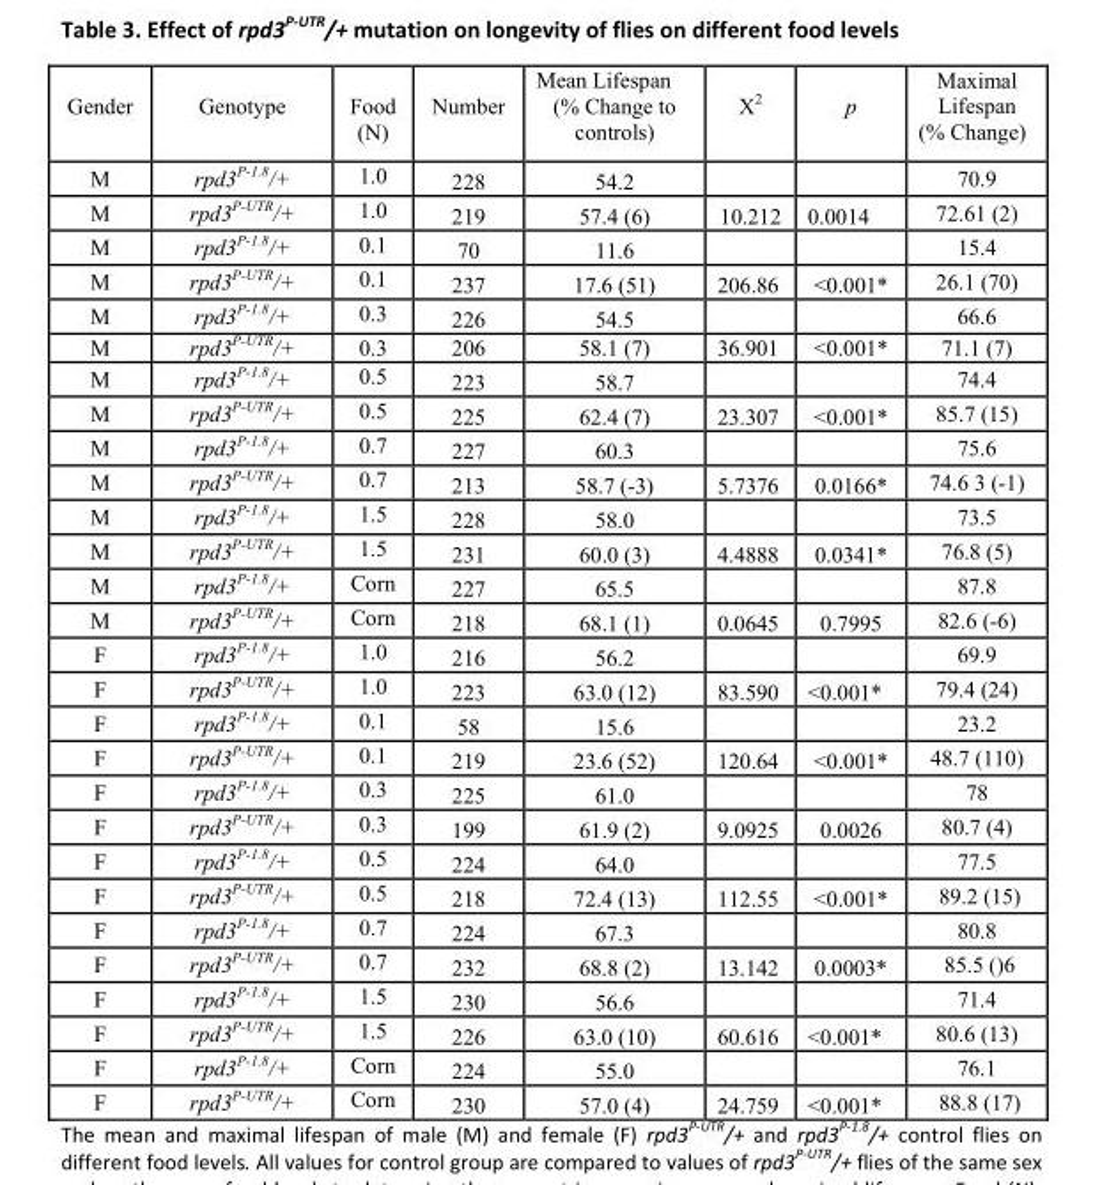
<table><thead><tr><td>Gender</td><td>Genotype</td><td>Food (N)</td><td>Number</td><td>Mean Lifespan (% Change to controls)</td><td>X<sup>2</sup></td><td>p</td><td>Maximal Lifespan (% Change)</td></tr></thead><tbody><tr><td>M</td><td>rpd3<sup>P-1.8</sup>/+</td><td>1.0</td><td>228</td><td>54.2</td><td></td><td></td><td>70.9</td></tr><tr><td>M</td><td>rpd3<sup>P-UTR</sup>/+</td><td>1.0</td><td>219</td><td>57.4 (6)</td><td>10.212</td><td>0.0014</td><td>72.61 (2)</td></tr><tr><td>M</td><td>rpd3<sup>P-1.8</sup>/+</td><td>0.1</td><td>70</td><td>11.6</td><td></td><td></td><td>15.4</td></tr><tr><td>M</td><td>rpd3<sup>P-UTR</sup>/+</td><td>0.1</td><td>237</td><td>17.6 (51)</td><td>206.86</td><td>&lt;0.001*</td><td>26.1 (70)</td></tr><tr><td>M</td><td>rpd3<sup>P-1.8</sup>/+</td><td>0.3</td><td>226</td><td>54.5</td><td></td><td></td><td>66.6</td></tr><tr><td>M</td><td>rpd3<sup>P-UTR</sup>/+</td><td>0.3</td><td>206</td><td>58.1 (7)</td><td>36.901</td><td>&lt;0.001*</td><td>71.1 (7)</td></tr><tr><td>M</td><td>rpd3<sup>P-1.8</sup>/+</td><td>0.5</td><td>223</td><td>58.7</td><td></td><td></td><td>74.4</td></tr><tr><td>M</td><td>rpd3<sup>P-UTR</sup>/+</td><td>0.5</td><td>225</td><td>62.4 (7)</td><td>23.307</td><td>&lt;0.001*</td><td>85.7 (15)</td></tr><tr><td>M</td><td>rpd3<sup>P-1.8</sup>/+</td><td>0.7</td><td>227</td><td>60.3</td><td></td><td></td><td>75.6</td></tr><tr><td>M</td><td>rpd3<sup>P-UTR</sup>/+</td><td>0.7</td><td>213</td><td>58.7 (-3)</td><td>5.7376</td><td>0.0166*</td><td>74.6 3 (-1)</td></tr><tr><td>M</td><td>rpd3<sup>P-1.8</sup>/+</td><td>1.5</td><td>228</td><td>58.0</td><td></td><td></td><td>73.5</td></tr><tr><td>M</td><td>rpd3<sup>P-UTR</sup>/+</td><td>1.5</td><td>231</td><td>60.0 (3)</td><td>4.4888</td><td>0.0341*</td><td>76.8 (5)</td></tr><tr><td>M</td><td>rpd3<sup>P-1.8</sup>/+</td><td>Corn</td><td>227</td><td>65.5</td><td></td><td></td><td>87.8</td></tr><tr><td>M</td><td>rpd3<sup>P-UTR</sup>/+</td><td>Corn</td><td>218</td><td>68.1 (1)</td><td>0.0645</td><td>0.7995</td><td>82.6 (-6)</td></tr><tr><td>F</td><td>rpd3<sup>P-1.8</sup>/+</td><td>1.0</td><td>216</td><td>56.2</td><td></td><td></td><td>69.9</td></tr><tr><td>F</td><td>rpd3<sup>P-UTR</sup>/+</td><td>1.0</td><td>223</td><td>63.0 (12)</td><td>83.590</td><td>&lt;0.001*</td><td>79.4 (24)</td></tr><tr><td>F</td><td>rpd3<sup>P-1.8</sup>/+</td><td>0.1</td><td>58</td><td>15.6</td><td></td><td></td><td>23.2</td></tr><tr><td>F</td><td>rpd3<sup>P-UTR</sup>/+</td><td>0.1</td><td>219</td><td>23.6 (52)</td><td>120.64</td><td>&lt;0.001*</td><td>48.7 (110)</td></tr><tr><td>F</td><td>rpd3<sup>P-1.8</sup>/+</td><td>0.3</td><td>225</td><td>61.0</td><td></td><td></td><td>78</td></tr><tr><td>F</td><td>rpd3<sup>P-UTR</sup>/+</td><td>0.3</td><td>199</td><td>61.9 (2)</td><td>9.0925</td><td>0.0026</td><td>80.7 (4)</td></tr><tr><td>F</td><td>rpd3<sup>P-1.8</sup>/+</td><td>0.5</td><td>224</td><td>64.0</td><td></td><td></td><td>77.5</td></tr><tr><td>F</td><td>rpd3<sup>P-UTR</sup>/+</td><td>0.5</td><td>218</td><td>72.4 (13)</td><td>112.55</td><td>&lt;0.001*</td><td>89.2 (15)</td></tr><tr><td>F</td><td>rpd3<sup>P-1.8</sup>/+</td><td>0.7</td><td>224</td><td>67.3</td><td></td><td></td><td>80.8</td></tr><tr><td>F</td><td>rpd3<sup>P-UTR</sup>/+</td><td>0.7</td><td>232</td><td>68.8 (2)</td><td>13.142</td><td>0.0003*</td><td>85.5 ()6</td></tr><tr><td>F</td><td>rpd3<sup>P-1.8</sup>/+</td><td>1.5</td><td>230</td><td>56.6</td><td></td><td></td><td>71.4</td></tr><tr><td>F</td><td>rpd3<sup>P-UTR</sup>/+</td><td>1.5</td><td>226</td><td>63.0 (10)</td><td>60.616</td><td>&lt;0.001*</td><td>80.6 (13)</td></tr><tr><td>F</td><td>rpd3<sup>P-1.8</sup>/+</td><td>Corn</td><td>224</td><td>55.0</td><td></td><td></td><td>76.1</td></tr><tr><td>F</td><td>rpd3<sup>P-UTR</sup>/+</td><td>Corn</td><td>230</td><td>57.0 (4)</td><td>24.759</td><td>&lt;0.001*</td><td>88.8 (17)</td></tr></tbody></table>